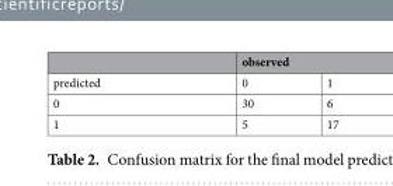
<table><thead><tr><td rowspan="2">predicted</td><td colspan="2">observed</td></tr><tr><td>0</td><td>1</td></tr></thead><tbody><tr><td>0</td><td>30</td><td>6</td></tr><tr><td>1</td><td>5</td><td>17</td></tr></tbody></table>